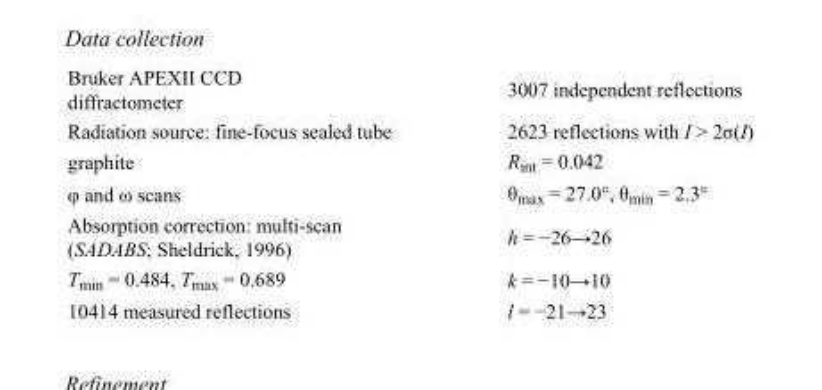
<table><tbody><tr><td>Bruker APEXII CCD diffractometer</td><td>3007 independent reflections</td></tr><tr><td>Radiation source: fine-focus sealed tube</td><td>2623 reflections with I &gt; 2σ(I)</td></tr><tr><td>graphite</td><td>R<sub>int</sub> = 0.042</td></tr><tr><td>φ and ω scans</td><td>θ<sub>max</sub> = 27.0°, θ<sub>min</sub> = 2.3°</td></tr><tr><td>Absorption correction: multi-scan (SADABS; Sheldrick, 1996)</td><td>h = −26→26</td></tr><tr><td>T<sub>min</sub> = 0.484, T<sub>max</sub> = 0.689</td><td>k = −10→10</td></tr><tr><td>10414 measured reflections</td><td>l = −21→23</td></tr></tbody></table>